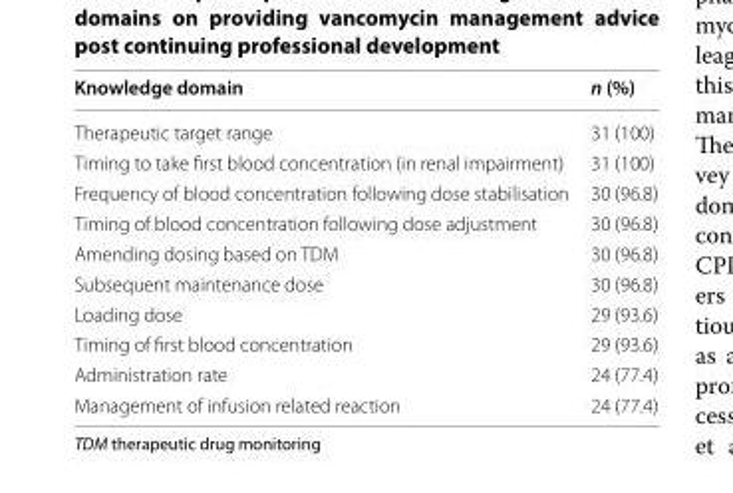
<table><thead><tr><td>Knowledge domain</td><td>n (%)</td></tr></thead><tbody><tr><td>Therapeutic target range</td><td>31 (100)</td></tr><tr><td>Timing to take first blood concentration (in renal impairment)</td><td>31 (100)</td></tr><tr><td>Frequency of blood concentration following dose stabilisation</td><td>30 (96.8)</td></tr><tr><td>Timing of blood concentration following dose adjustment</td><td>30 (96.8)</td></tr><tr><td>Amending dosing based on TDM</td><td>30 (96.8)</td></tr><tr><td>Subsequent maintenance dose</td><td>30 (96.8)</td></tr><tr><td>Loading dose</td><td>29 (93.6)</td></tr><tr><td>Timing of first blood concentration</td><td>29 (93.6)</td></tr><tr><td>Administration rate</td><td>24 (77.4)</td></tr><tr><td>Management of infusion related reaction</td><td>24 (77.4)</td></tr></tbody></table>